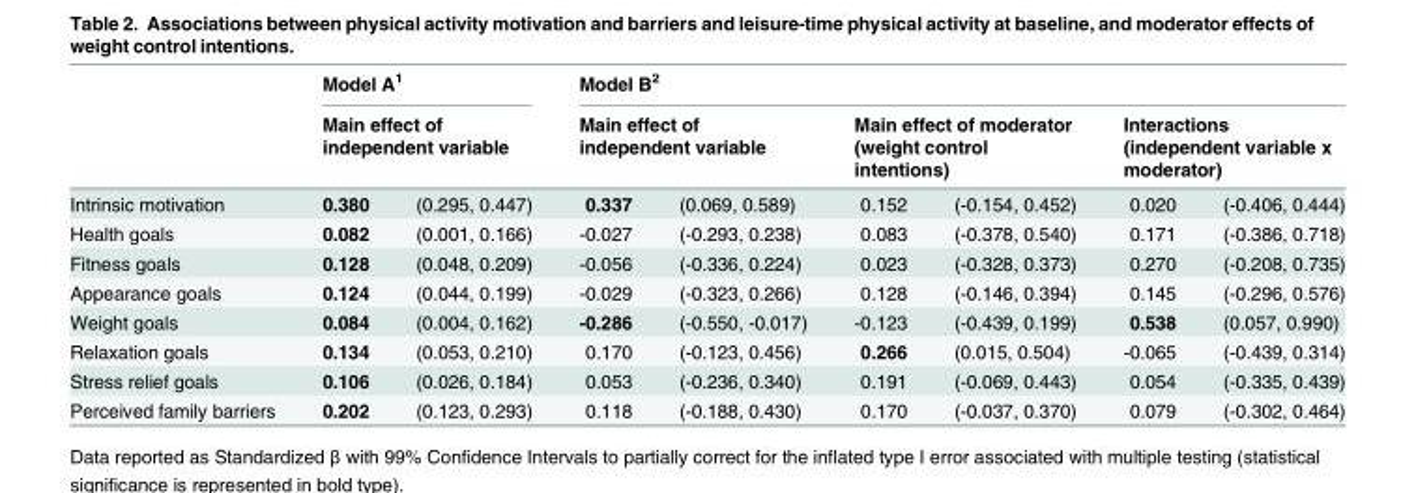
<table><thead><tr><td rowspan="3">Intrinsic motivation</td><td rowspan="2" colspan="2">Model A<sup>1</sup> Main effect of independent variable</td><td colspan="6">Model B<sup>2</sup></td></tr><tr><td colspan="2">Main effect of independent variable</td><td colspan="2">Main effect of moderator (weight control intentions)</td><td colspan="2">Interactions (independent variable x moderator)</td></tr><tr><td>0.380</td><td>(0.295, 0.447)</td><td>0.337</td><td>(0.069, 0.589)</td><td>0.152</td><td>(-0.154, 0.452)</td><td>0.020</td><td>(-0.406, 0.444)</td></tr></thead><tbody><tr><td>Health goals</td><td>0.082</td><td>(0.001, 0.166)</td><td>-0.027</td><td>(-0.293, 0.238)</td><td>0.083</td><td>(-0.378, 0.540)</td><td>0.171</td><td>(-0.386, 0.718)</td></tr><tr><td>Fitness goals</td><td>0.128</td><td>(0.048, 0.209)</td><td>-0.056</td><td>(-0.336, 0.224)</td><td>0.023</td><td>(-0.328, 0.373)</td><td>0.270</td><td>(-0.208, 0.735)</td></tr><tr><td>Appearance goals</td><td>0.124</td><td>(0.044, 0.199)</td><td>-0.029</td><td>(-0.323, 0.266)</td><td>0.128</td><td>(-0.146, 0.394)</td><td>0.145</td><td>(-0.296, 0.576)</td></tr><tr><td>Weight goals</td><td>0.084</td><td>(0.004, 0.162)</td><td>-0.286</td><td>(-0.550, -0.017)</td><td>-0.123</td><td>(-0.439, 0.199)</td><td>0.538</td><td>(0.057, 0.990)</td></tr><tr><td>Relaxation goals</td><td>0.134</td><td>(0.053, 0.210)</td><td>0.170</td><td>(-0.123, 0.456)</td><td>0.266</td><td>(0.015, 0.504)</td><td>-0.065</td><td>(-0.439, 0.314)</td></tr><tr><td>Stress relief goals</td><td>0.106</td><td>(0.026, 0.184)</td><td>0.053</td><td>(-0.236, 0.340)</td><td>0.191</td><td>(-0.069, 0.443)</td><td>0.054</td><td>(-0.335, 0.439)</td></tr><tr><td>Perceived family barriers</td><td>0.202</td><td>(0.123, 0.293)</td><td>0.118</td><td>(-0.188, 0.430)</td><td>0.170</td><td>(-0.037, 0.370)</td><td>0.079</td><td>(-0.302, 0.464)</td></tr></tbody></table>